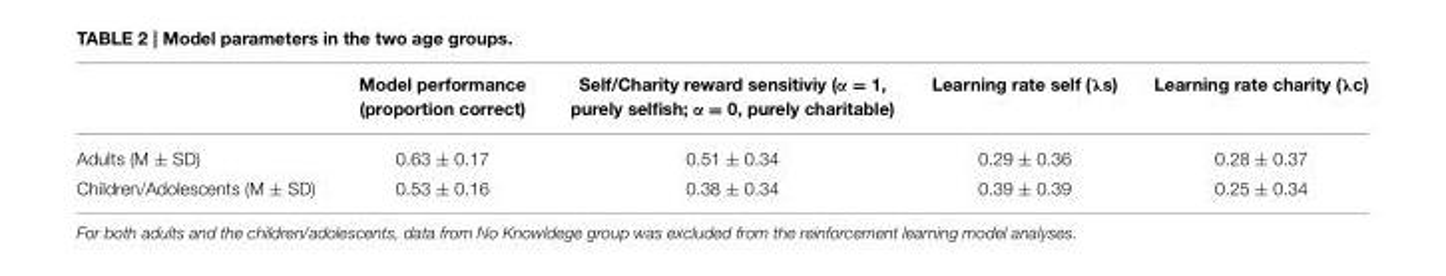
<table><thead><tr><td></td><td>Model performance (proportion correct)</td><td>Self/Charity reward sensitiviy (α = 1, purely selfish; α = 0, purely charitable)</td><td>Learning rate self (λs)</td><td>Learning rate charity (λc)</td></tr></thead><tbody><tr><td>Adults (M ± SD)</td><td>0.63 ± 0.17</td><td>0.51 ± 0.34</td><td>0.29 ± 0.36</td><td>0.28 ± 0.37</td></tr><tr><td>Children/Adolescents (M ± SD)</td><td>0.53 ± 0.16</td><td>0.38 ± 0.34</td><td>0.39 ± 0.39</td><td>0.25 ± 0.34</td></tr></tbody></table>